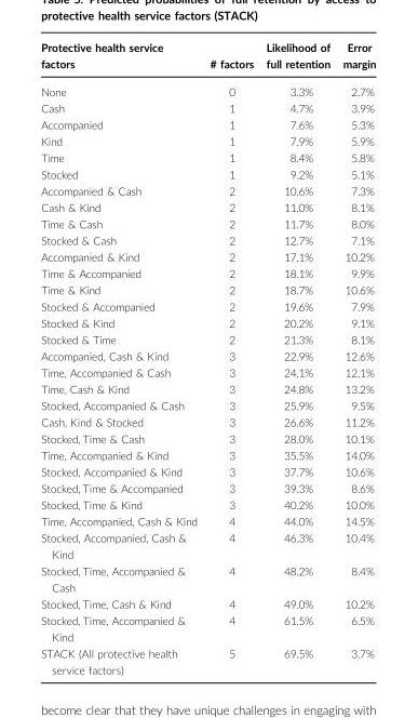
<table><thead><tr><td>Protective health service factors</td><td># factors</td><td>Likelihood of full retention</td><td>Error margin</td></tr></thead><tbody><tr><td>None</td><td>0</td><td>3.3%</td><td>2.7%</td></tr><tr><td>Cash</td><td>1</td><td>4.7%</td><td>3.9%</td></tr><tr><td>Accompanied</td><td>1</td><td>7.6%</td><td>5.3%</td></tr><tr><td>Kind</td><td>1</td><td>7.9%</td><td>5.9%</td></tr><tr><td>Time</td><td>1</td><td>8.4%</td><td>5.8%</td></tr><tr><td>Stocked</td><td>1</td><td>9.2%</td><td>5.1%</td></tr><tr><td>Accompanied &amp; Cash</td><td>2</td><td>10.6%</td><td>7.3%</td></tr><tr><td>Cash &amp; Kind</td><td>2</td><td>11.0%</td><td>8.1%</td></tr><tr><td>Time &amp; Cash</td><td>2</td><td>11.7%</td><td>8.0%</td></tr><tr><td>Stocked &amp; Cash</td><td>2</td><td>12.7%</td><td>7.1%</td></tr><tr><td>Accompanied &amp; Kind</td><td>2</td><td>17.1%</td><td>10.2%</td></tr><tr><td>Time &amp; Accompanied</td><td>2</td><td>18.1%</td><td>9.9%</td></tr><tr><td>Time &amp; Kind</td><td>2</td><td>18.7%</td><td>10.6%</td></tr><tr><td>Stocked &amp; Accompanied</td><td>2</td><td>19.6%</td><td>7.9%</td></tr><tr><td>Stocked &amp; Kind</td><td>2</td><td>20.2%</td><td>9.1%</td></tr><tr><td>Stocked &amp; Time</td><td>2</td><td>21.3%</td><td>8.1%</td></tr><tr><td>Accompanied, Cash &amp; Kind</td><td>3</td><td>22.9%</td><td>12.6%</td></tr><tr><td>Time, Accompanied &amp; Cash</td><td>3</td><td>24.1%</td><td>12.1%</td></tr><tr><td>Time, Cash &amp; Kind</td><td>3</td><td>24.8%</td><td>13.2%</td></tr><tr><td>Stocked, Accompanied &amp; Cash</td><td>3</td><td>25.9%</td><td>9.5%</td></tr><tr><td>Cash, Kind &amp; Stocked</td><td>3</td><td>26.6%</td><td>11.2%</td></tr><tr><td>Stocked, Time &amp; Cash</td><td>3</td><td>28.0%</td><td>10.1%</td></tr><tr><td>Time, Accompanied &amp; Kind</td><td>3</td><td>35.5%</td><td>14.0%</td></tr><tr><td>Stocked, Accompanied &amp; Kind</td><td>3</td><td>37.7%</td><td>10.6%</td></tr><tr><td>Stocked, Time &amp; Accompanied</td><td>3</td><td>39.3%</td><td>8.6%</td></tr><tr><td>Stocked, Time &amp; Kind</td><td>3</td><td>40.2%</td><td>10.0%</td></tr><tr><td>Time, Accompanied, Cash &amp; Kind</td><td>4</td><td>44.0%</td><td>14.5%</td></tr><tr><td>Stocked, Accompanied, Cash &amp; Kind</td><td>4</td><td>46.3%</td><td>10.4%</td></tr><tr><td>Stocked, Time, Accompanied &amp; Cash</td><td>4</td><td>48.2%</td><td>8.4%</td></tr><tr><td>Stocked, Time, Cash &amp; Kind</td><td>4</td><td>49.0%</td><td>10.2%</td></tr><tr><td>Stocked, Time, Accompanied &amp; Kind</td><td>4</td><td>61.5%</td><td>6.5%</td></tr><tr><td>STACK (All protective health service factors)</td><td>5</td><td>69.5%</td><td>3.7%</td></tr></tbody></table>